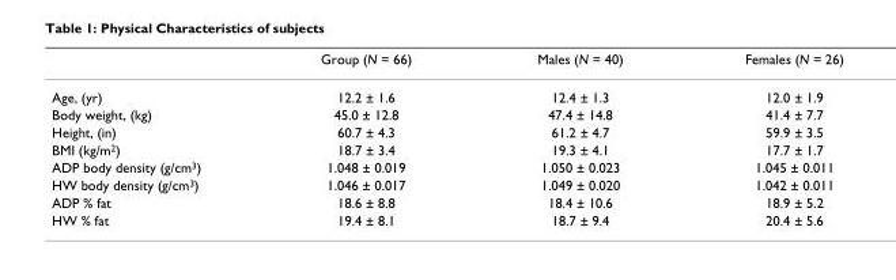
<table><thead><tr><td></td><td>Group (N = 66)</td><td>Males (N = 40)</td><td>Females (N = 26)</td></tr></thead><tbody><tr><td>Age, (yr)</td><td>12.2 ± 1.6</td><td>12.4 ± 1.3</td><td>12.0 ± 1.9</td></tr><tr><td>Body weight, (kg)</td><td>45.0 ± 12.8</td><td>47.4 ± 14.8</td><td>41.4 ± 7.7</td></tr><tr><td>Height, (in)</td><td>60.7 ± 4.3</td><td>61.2 ± 4.7</td><td>59.9 ± 3.5</td></tr><tr><td>BMI (kg/m<sup>2</sup>)</td><td>18.7 ± 3.4</td><td>19.3 ± 4.1</td><td>17.7 ± 1.7</td></tr><tr><td>ADP body density (g/cm<sup>3</sup>)</td><td>1.048 ± 0.019</td><td>1.050 ± 0.023</td><td>1.045 ± 0.011</td></tr><tr><td>HW body density (g/cm<sup>3</sup>)</td><td>1.046 ± 0.017</td><td>1.049 ± 0.020</td><td>1.042 ± 0.011</td></tr><tr><td>ADP % fat</td><td>18.6 ± 8.8</td><td>18.4 ± 10.6</td><td>18.9 ± 5.2</td></tr><tr><td>HW % fat</td><td>19.4 ± 8.1</td><td>18.7 ± 9.4</td><td>20.4 ± 5.6</td></tr></tbody></table>